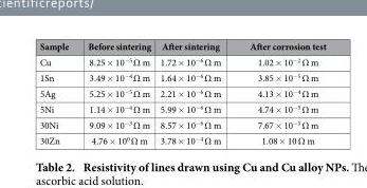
<table><thead><tr><td>Sample</td><td>Before sintering</td><td>After sintering</td><td>After corrosion test</td></tr></thead><tbody><tr><td>Cu</td><td>8.25 × 10<sup>−5</sup> Ω m</td><td>1.72 × 10<sup>−6</sup> Ω m</td><td>1.02 × 10<sup>−2</sup> Ω m</td></tr><tr><td>1Sn</td><td>3.49 × 10<sup>−4</sup> Ω m</td><td>1.64 × 10<sup>−6</sup> Ω m</td><td>3.85 × 10<sup>−5</sup> Ω m</td></tr><tr><td>5Ag</td><td>5.25 × 10<sup>−5</sup> Ω m</td><td>2.21 × 10<sup>−6</sup> Ω m</td><td>4.13 × 10<sup>−4</sup> Ω m</td></tr><tr><td>5Ni</td><td>1.14 × 10<sup>−4</sup> Ω m</td><td>5.99 × 10<sup>−6</sup> Ω m</td><td>4.74 × 10<sup>−5</sup> Ω m</td></tr><tr><td>30Ni</td><td>9.09 × 10<sup>−3</sup> Ω m</td><td>8.57 × 10<sup>−6</sup> Ω m</td><td>7.67 × 10<sup>−5</sup> Ω m</td></tr><tr><td>30Zn</td><td>4.76 × 10<sup>0</sup> Ω m</td><td>3.78 × 10<sup>−4</sup> Ω m</td><td>1.08 × 10 Ω m</td></tr></tbody></table>